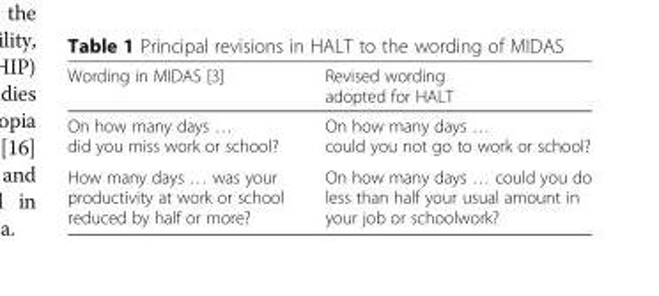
<table><thead><tr><td>Wording in MIDAS [3]</td><td>Revised wording adopted for HALT</td></tr></thead><tbody><tr><td>On how many days … did you miss work or school?</td><td>On how many days … could you not go to work or school?</td></tr><tr><td>How many days … was your productivity at work or school reduced by half or more?</td><td>On how many days … could you do less than half your usual amount in your job or schoolwork?</td></tr></tbody></table>